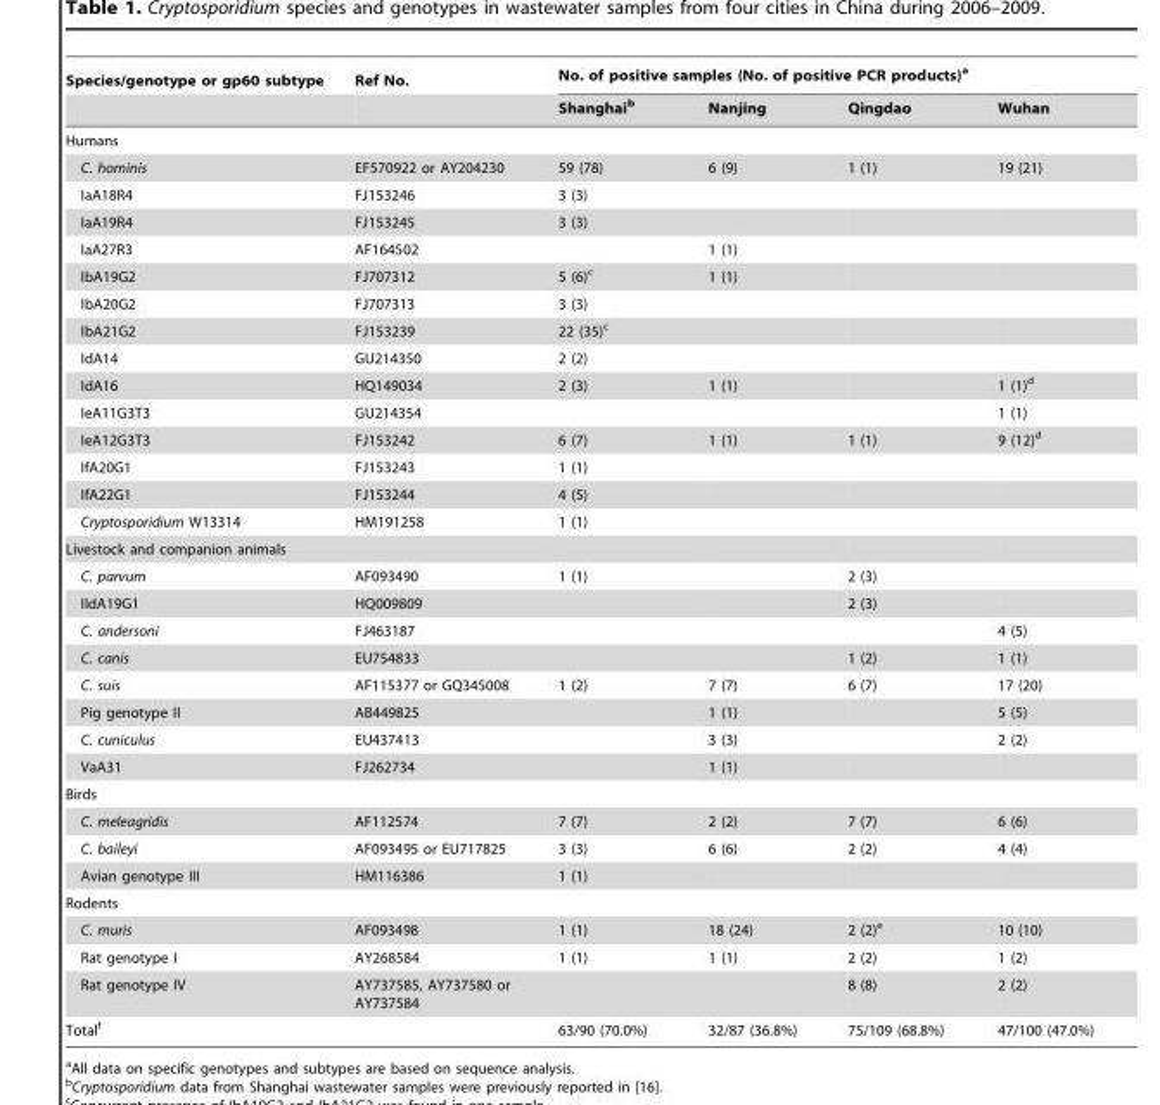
<table><thead><tr><td rowspan="2">Species/genotype or gp60 subtype</td><td rowspan="2">Ref No.</td><td colspan="4">No. of positive samples (No. of positive PCR products)<sup>a</sup></td></tr><tr><td>Shanghai<sup>b</sup></td><td>Nanjing</td><td>Qingdao</td><td>Wuhan</td></tr></thead><tbody><tr><td colspan="6">Humans</td></tr><tr><td>C. hominis</td><td>EF570922 or AY204230</td><td>59 (78)</td><td>6 (9)</td><td>1 (1)</td><td>19 (21)</td></tr><tr><td>IaA18R4</td><td>FJ153246</td><td>3 (3)</td><td></td><td></td><td></td></tr><tr><td>IaA19R4</td><td>FJ153245</td><td>3 (3)</td><td></td><td></td><td></td></tr><tr><td>IaA27R3</td><td>AF164502</td><td></td><td>1 (1)</td><td></td><td></td></tr><tr><td>IbA19G2</td><td>FJ707312</td><td>5 (6)<sup>c</sup></td><td>1 (1)</td><td></td><td></td></tr><tr><td>IbA20G2</td><td>FJ707313</td><td>3 (3)</td><td></td><td></td><td></td></tr><tr><td>IbA21G2</td><td>FJ153239</td><td>22 (35)<sup>c</sup></td><td></td><td></td><td></td></tr><tr><td>IdA14</td><td>GU214350</td><td>2 (2)</td><td></td><td></td><td></td></tr><tr><td>IdA16</td><td>HQ149034</td><td>2 (3)</td><td>1 (1)</td><td></td><td>1 (1)<sup>d</sup></td></tr><tr><td>IeA11G3T3</td><td>GU214354</td><td></td><td></td><td></td><td>1 (1)</td></tr><tr><td>IeA12G3T3</td><td>FJ153242</td><td>6 (7)</td><td>1 (1)</td><td>1 (1)</td><td>9 (12)<sup>d</sup></td></tr><tr><td>IfA20G1</td><td>FJ153243</td><td>1 (1)</td><td></td><td></td><td></td></tr><tr><td>IfA22G1</td><td>FJ153244</td><td>4 (5)</td><td></td><td></td><td></td></tr><tr><td>Cryptosporidium W13314</td><td>HM191258</td><td>1 (1)</td><td></td><td></td><td></td></tr><tr><td colspan="6">Livestock and companion animals</td></tr><tr><td>C. parvum</td><td>AF093490</td><td>1 (1)</td><td></td><td>2 (3)</td><td></td></tr><tr><td>IIdA19G1</td><td>HQ009809</td><td></td><td></td><td>2 (3)</td><td></td></tr><tr><td>C. andersoni</td><td>FJ463187</td><td></td><td></td><td></td><td>4 (5)</td></tr><tr><td>C. canis</td><td>EU754833</td><td></td><td></td><td>1 (2)</td><td>1 (1)</td></tr><tr><td>C. suis</td><td>AF115377 or GQ345008</td><td>1 (2)</td><td>7 (7)</td><td>6 (7)</td><td>17 (20)</td></tr><tr><td>Pig genotype II</td><td>AB449825</td><td></td><td>1 (1)</td><td></td><td>5 (5)</td></tr><tr><td>C. cuniculus</td><td>EU437413</td><td></td><td>3 (3)</td><td></td><td>2 (2)</td></tr><tr><td>VaA31</td><td>FJ262734</td><td></td><td>1 (1)</td><td></td><td></td></tr><tr><td colspan="6">Birds</td></tr><tr><td>C. meleagridis</td><td>AF112574</td><td>7 (7)</td><td>2 (2)</td><td>7 (7)</td><td>6 (6)</td></tr><tr><td>C. baileyi</td><td>AF093495 or EU717825</td><td>3 (3)</td><td>6 (6)</td><td>2 (2)</td><td>4 (4)</td></tr><tr><td>Avian genotype III</td><td>HM116386</td><td>1 (1)</td><td></td><td></td><td></td></tr><tr><td colspan="6">Rodents</td></tr><tr><td>C. muris</td><td>AF093498</td><td>1 (1)</td><td>18 (24)</td><td>2 (2)<sup>e</sup></td><td>10 (10)</td></tr><tr><td>Rat genotype I</td><td>AY268584</td><td>1 (1)</td><td>1 (1)</td><td>2 (2)</td><td>1 (2)</td></tr><tr><td>Rat genotype IV</td><td>AY737585, AY737580 or AY737584</td><td></td><td></td><td>8 (8)</td><td>2 (2)</td></tr><tr><td>Total<sup>f</sup></td><td></td><td>63/90 (70.0%)</td><td>32/87 (36.8%)</td><td>75/109 (68.8%)</td><td>47/100 (47.0%)</td></tr></tbody></table>